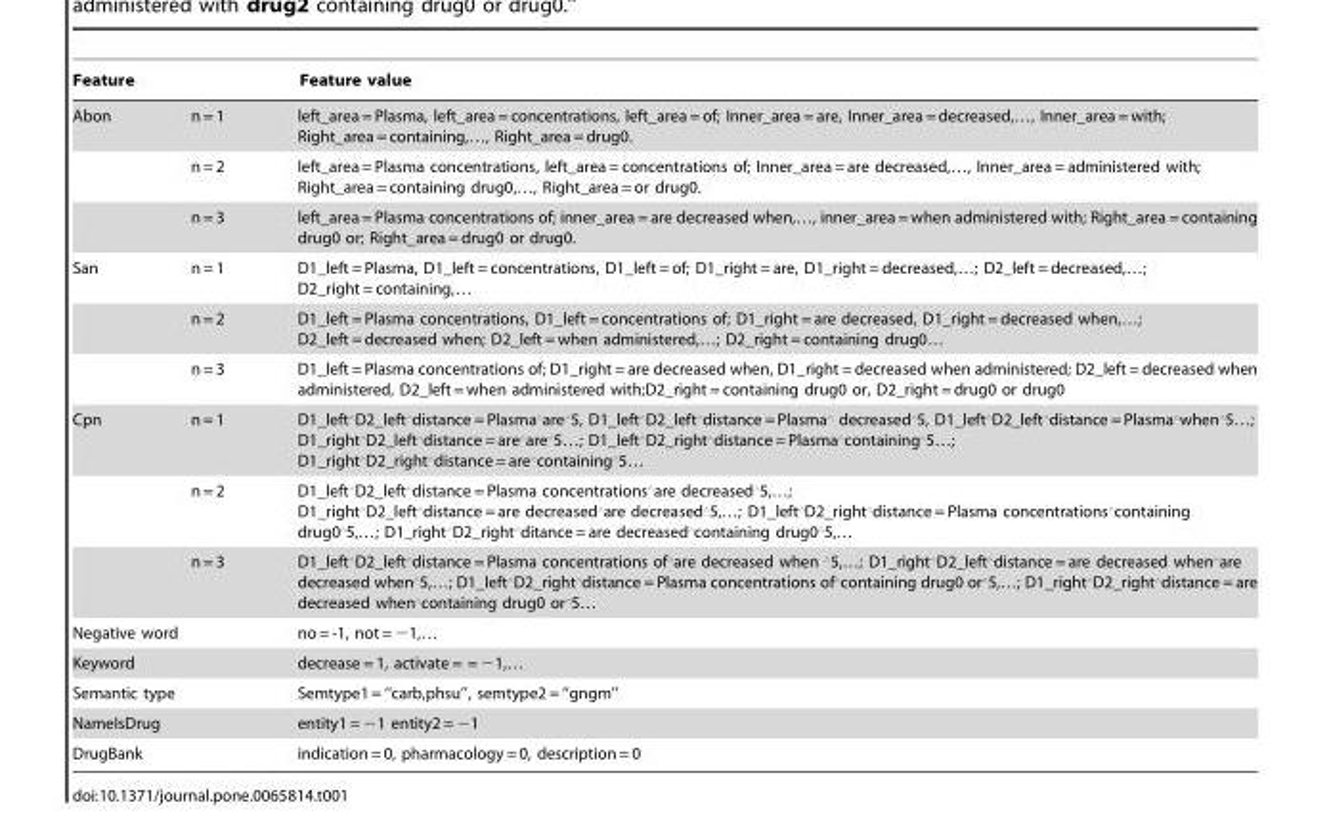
<table><thead><tr><td rowspan="2">Feature Abon</td><td colspan="2">Feature value</td></tr><tr><td>n = 1</td><td>left_area = Plasma, left_area = concentrations, left_area = of; Inner_area = are, Inner_area = decreased,…, Inner_area = with; Right_area = containing,…, Right_area = drug0.</td></tr></thead><tbody><tr><td></td><td>n = 2</td><td>left_area = Plasma concentrations, left_area = concentrations of; Inner_area = are decreased,…, Inner_area = administered with; Right_area = containing drug0,…, Right_area = or drug0.</td></tr><tr><td></td><td>n = 3</td><td>left_area = Plasma concentrations of; inner_area = are decreased when,…, inner_area = when administered with; Right_area = containing drug0 or; Right_area = drug0 or drug0.</td></tr><tr><td rowspan="3">San</td><td>n = 1</td><td>D1_left = Plasma, D1_left = concentrations, D1_left = of; D1_right = are, D1_right = decreased,…; D2_left = decreased,…; D2_right = containing,…</td></tr><tr><td>n = 2</td><td>D1_left = Plasma concentrations, D1_left = concentrations of; D1_right = are decreased, D1_right = decreased when,…; D2_left = decreased when; D2_left = when administered,…; D2_right = containing drug0…</td></tr><tr><td>n = 3</td><td>D1_left = Plasma concentrations of; D1_right = are decreased when, D1_right = decreased when administered; D2_left = decreased when administered, D2_left = when administered with;D2_right = containing drug0 or, D2_right = drug0 or drug0</td></tr><tr><td rowspan="3">Cpn</td><td>n = 1</td><td>D1_left‘D2_left‘distance = Plasma‘are‘5, D1_left‘D2_left‘distance = Plasma‘ decreased‘5, D1_left‘D2_left‘distance = Plasma‘when‘5…; D1_right‘D2_left‘distance = are‘are‘5…; D1_left‘D2_right‘distance = Plasma‘containing‘5…; D1_right‘D2_right‘distance = are‘containing‘5…</td></tr><tr><td>n = 2</td><td>D1_left‘D2_left‘distance = Plasma concentrations‘are decreased‘5,…; D1_right‘D2_left‘distance = are decreased‘are decreased‘5,…; D1_left‘D2_right‘distance = Plasma concentrations‘containing drug0‘5,…; D1_right‘D2_right‘ditance = are decreased‘containing drug0‘5,…</td></tr><tr><td>n = 3</td><td>D1_left‘D2_left‘distance = Plasma concentrations of‘are decreased when ‘5,…; D1_right‘D2_left‘distance = are decreased when‘are decreased when‘5,…; D1_left‘D2_right‘distance = Plasma concentrations of‘containing drug0 or‘5,…; D1_right‘D2_right‘distance = are decreased when‘containing drug0 or‘5…</td></tr><tr><td colspan="2">Negative word</td><td>no = -1, not = −1,…</td></tr><tr><td colspan="2">Keyword</td><td>decrease = 1, activate = = −1,…</td></tr><tr><td colspan="2">Semantic type</td><td>Semtype1 = ‘‘carb,phsu’’, semtype2 = ‘‘gngm’’</td></tr><tr><td colspan="2">NameIsDrug</td><td>entity1 = −1 entity2 = −1</td></tr><tr><td colspan="2">DrugBank</td><td>indication = 0, pharmacology = 0, description = 0</td></tr></tbody></table>